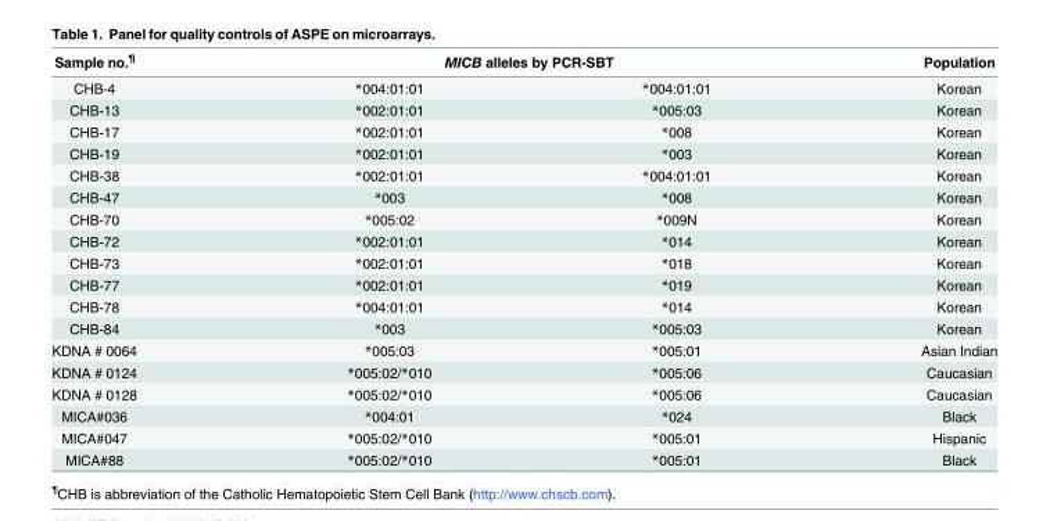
<table><thead><tr><td rowspan="2">Sample no.<sup>¶</sup> CHB-4</td><td colspan="2">MICB alleles by PCR-SBT</td><td rowspan="2">Population Korean</td></tr><tr><td>*004:01:01</td><td>*004:01:01</td></tr></thead><tbody><tr><td>CHB-13</td><td>*002:01:01</td><td>*005:03</td><td>Korean</td></tr><tr><td>CHB-17</td><td>*002:01:01</td><td>*008</td><td>Korean</td></tr><tr><td>CHB-19</td><td>*002:01:01</td><td>*003</td><td>Korean</td></tr><tr><td>CHB-38</td><td>*002:01:01</td><td>*004:01:01</td><td>Korean</td></tr><tr><td>CHB-47</td><td>*003</td><td>*008</td><td>Korean</td></tr><tr><td>CHB-70</td><td>*005:02</td><td>*009N</td><td>Korean</td></tr><tr><td>CHB-72</td><td>*002:01:01</td><td>*014</td><td>Korean</td></tr><tr><td>CHB-73</td><td>*002:01:01</td><td>*018</td><td>Korean</td></tr><tr><td>CHB-77</td><td>*002:01:01</td><td>*019</td><td>Korean</td></tr><tr><td>CHB-78</td><td>*004:01:01</td><td>*014</td><td>Korean</td></tr><tr><td>CHB-84</td><td>*003</td><td>*005:03</td><td>Korean</td></tr><tr><td>KDNA # 0064</td><td>*005:03</td><td>*005:01</td><td>Asian Indian</td></tr><tr><td>KDNA # 0124</td><td>*005:02/*010</td><td>*005:06</td><td>Caucasian</td></tr><tr><td>KDNA # 0128</td><td>*005:02/*010</td><td>*005:06</td><td>Caucasian</td></tr><tr><td>MICA#036</td><td>*004:01</td><td>*024</td><td>Black</td></tr><tr><td>MICA#047</td><td>*005:02/*010</td><td>*005:01</td><td>Hispanic</td></tr><tr><td>MICA#88</td><td>*005:02/*010</td><td>*005:01</td><td>Black</td></tr></tbody></table>